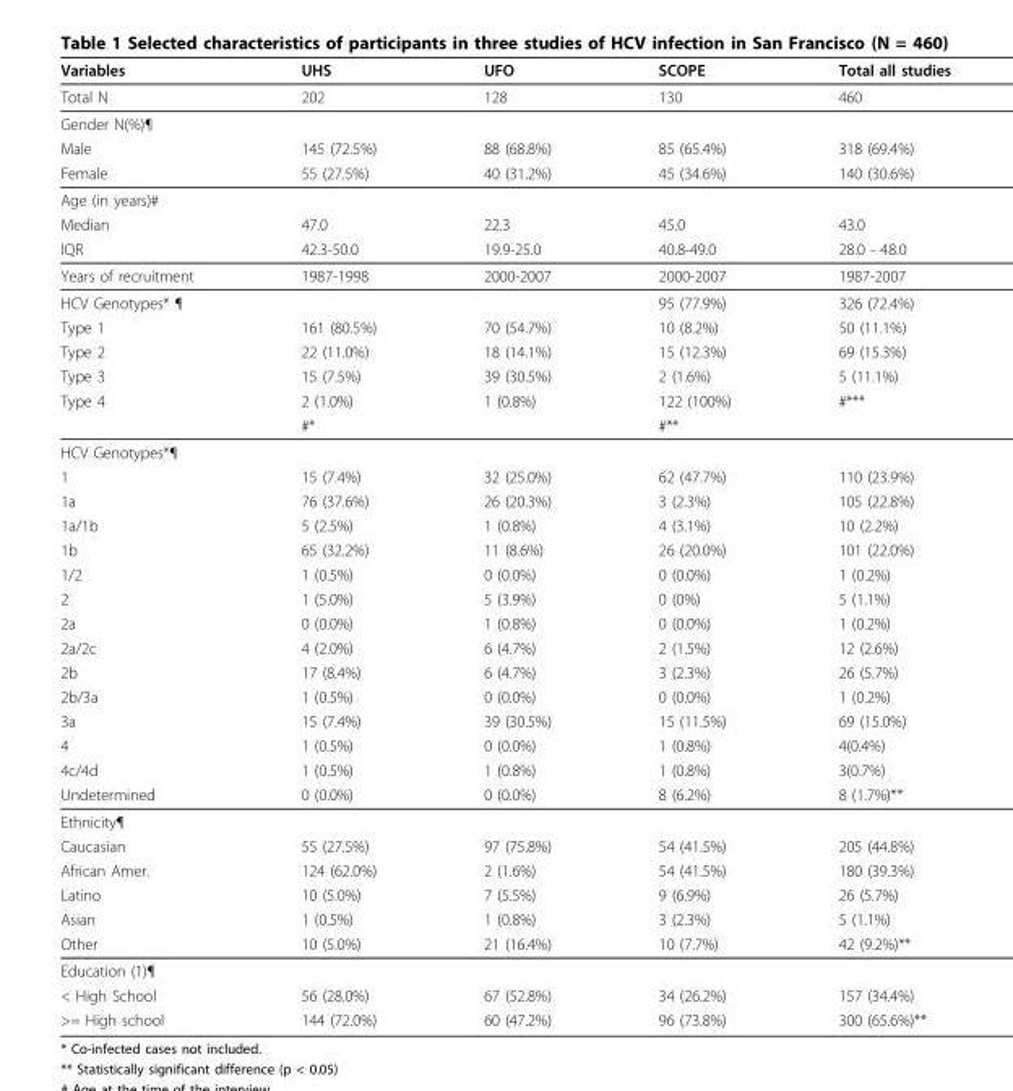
<table><thead><tr><td>Variables</td><td>UHS</td><td>UFO</td><td>SCOPE</td><td>Total all studies</td></tr></thead><tbody><tr><td>Total N</td><td>202</td><td>128</td><td>130</td><td>460</td></tr><tr><td colspan="5">Gender N(%)¶</td></tr><tr><td>Male</td><td>145 (72.5%)</td><td>88 (68.8%)</td><td>85 (65.4%)</td><td>318 (69.4%)</td></tr><tr><td>Female</td><td>55 (27.5%)</td><td>40 (31.2%)</td><td>45 (34.6%)</td><td>140 (30.6%)</td></tr><tr><td colspan="5">Age (in years)#</td></tr><tr><td>Median</td><td>47.0</td><td>22.3</td><td>45.0</td><td>43.0</td></tr><tr><td>IQR</td><td>42.3-50.0</td><td>19.9-25.0</td><td>40.8-49.0</td><td>28.0 - 48.0</td></tr><tr><td>Years of recruitment</td><td>1987-1998</td><td>2000-2007</td><td>2000-2007</td><td>1987-2007</td></tr><tr><td>HCV Genotypes* ¶</td><td></td><td></td><td>95 (77.9%)</td><td>326 (72.4%)</td></tr><tr><td>Type 1</td><td>161 (80.5%)</td><td>70 (54.7%)</td><td>10 (8.2%)</td><td>50 (11.1%)</td></tr><tr><td>Type 2</td><td>22 (11.0%)</td><td>18 (14.1%)</td><td>15 (12.3%)</td><td>69 (15.3%)</td></tr><tr><td>Type 3</td><td>15 (7.5%)</td><td>39 (30.5%)</td><td>2 (1.6%)</td><td>5 (11.1%)</td></tr><tr><td rowspan="2">Type 4</td><td>2 (1.0%)</td><td>1 (0.8%)</td><td>122 (100%)</td><td>#***</td></tr><tr><td>#*</td><td></td><td>#**</td><td></td></tr><tr><td colspan="5">HCV Genotypes*¶</td></tr><tr><td>1</td><td>15 (7.4%)</td><td>32 (25.0%)</td><td>62 (47.7%)</td><td>110 (23.9%)</td></tr><tr><td>1a</td><td>76 (37.6%)</td><td>26 (20.3%)</td><td>3 (2.3%)</td><td>105 (22.8%)</td></tr><tr><td>1a/1b</td><td>5 (2.5%)</td><td>1 (0.8%)</td><td>4 (3.1%)</td><td>10 (2.2%)</td></tr><tr><td>1b</td><td>65 (32.2%)</td><td>11 (8.6%)</td><td>26 (20.0%)</td><td>101 (22.0%)</td></tr><tr><td>1/2</td><td>1 (0.5%)</td><td>0 (0.0%)</td><td>0 (0.0%)</td><td>1 (0.2%)</td></tr><tr><td>2</td><td>1 (5.0%)</td><td>5 (3.9%)</td><td>0 (0%)</td><td>5 (1.1%)</td></tr><tr><td>2a</td><td>0 (0.0%)</td><td>1 (0.8%)</td><td>0 (0.0%)</td><td>1 (0.2%)</td></tr><tr><td>2a/2c</td><td>4 (2.0%)</td><td>6 (4.7%)</td><td>2 (1.5%)</td><td>12 (2.6%)</td></tr><tr><td>2b</td><td>17 (8.4%)</td><td>6 (4.7%)</td><td>3 (2.3%)</td><td>26 (5.7%)</td></tr><tr><td>2b/3a</td><td>1 (0.5%)</td><td>0 (0.0%)</td><td>0 (0.0%)</td><td>1 (0.2%)</td></tr><tr><td>3a</td><td>15 (7.4%)</td><td>39 (30.5%)</td><td>15 (11.5%)</td><td>69 (15.0%)</td></tr><tr><td>4</td><td>1 (0.5%)</td><td>0 (0.0%)</td><td>1 (0.8%)</td><td>4(0.4%)</td></tr><tr><td>4c/4d</td><td>1 (0.5%)</td><td>1 (0.8%)</td><td>1 (0.8%)</td><td>3(0.7%)</td></tr><tr><td>Undetermined</td><td>0 (0.0%)</td><td>0 (0.0%)</td><td>8 (6.2%)</td><td>8 (1.7%)**</td></tr><tr><td colspan="5">Ethnicity¶</td></tr><tr><td>Caucasian</td><td>55 (27.5%)</td><td>97 (75.8%)</td><td>54 (41.5%)</td><td>205 (44.8%)</td></tr><tr><td>African Amer.</td><td>124 (62.0%)</td><td>2 (1.6%)</td><td>54 (41.5%)</td><td>180 (39.3%)</td></tr><tr><td>Latino</td><td>10 (5.0%)</td><td>7 (5.5%)</td><td>9 (6.9%)</td><td>26 (5.7%)</td></tr><tr><td>Asian</td><td>1 (0.5%)</td><td>1 (0.8%)</td><td>3 (2.3%)</td><td>5 (1.1%)</td></tr><tr><td>Other</td><td>10 (5.0%)</td><td>21 (16.4%)</td><td>10 (7.7%)</td><td>42 (9.2%)**</td></tr><tr><td colspan="5">Education (1)¶</td></tr><tr><td>&lt; High School</td><td>56 (28.0%)</td><td>67 (52.8%)</td><td>34 (26.2%)</td><td>157 (34.4%)</td></tr><tr><td>&gt;= High school</td><td>144 (72.0%)</td><td>60 (47.2%)</td><td>96 (73.8%)</td><td>300 (65.6%)**</td></tr></tbody></table>